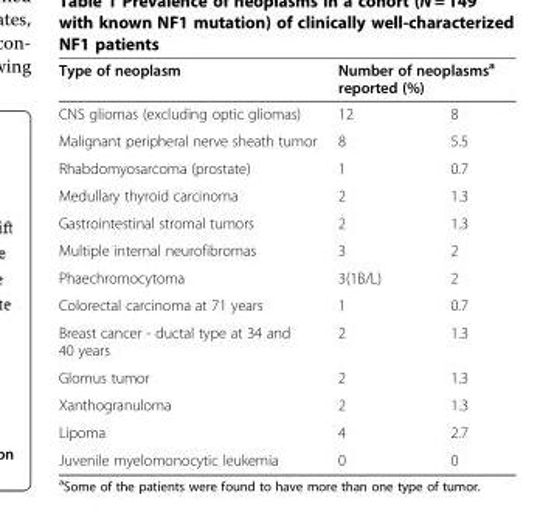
<table><thead><tr><td rowspan="2">Type of neoplasm CNS gliomas (excluding optic gliomas)</td><td colspan="2">Number of neoplasms<sup>a</sup> reported (%)</td></tr><tr><td>12</td><td>8</td></tr></thead><tbody><tr><td>Malignant peripheral nerve sheath tumor</td><td>8</td><td>5.5</td></tr><tr><td>Rhabdomyosarcoma (prostate)</td><td>1</td><td>0.7</td></tr><tr><td>Medullary thyroid carcinoma</td><td>2</td><td>1.3</td></tr><tr><td>Gastrointestinal stromal tumors</td><td>2</td><td>1.3</td></tr><tr><td>Multiple internal neurofibromas</td><td>3</td><td>2</td></tr><tr><td>Phaechromocytoma</td><td>3(1B/L)</td><td>2</td></tr><tr><td>Colorectal carcinoma at 71 years</td><td>1</td><td>0.7</td></tr><tr><td>Breast cancer - ductal type at 34 and 40 years</td><td>2</td><td>1.3</td></tr><tr><td>Glomus tumor</td><td>2</td><td>1.3</td></tr><tr><td>Xanthogranuloma</td><td>2</td><td>1.3</td></tr><tr><td>Lipoma</td><td>4</td><td>2.7</td></tr><tr><td>Juvenile myelomonocytic leukemia</td><td>0</td><td>0</td></tr></tbody></table>